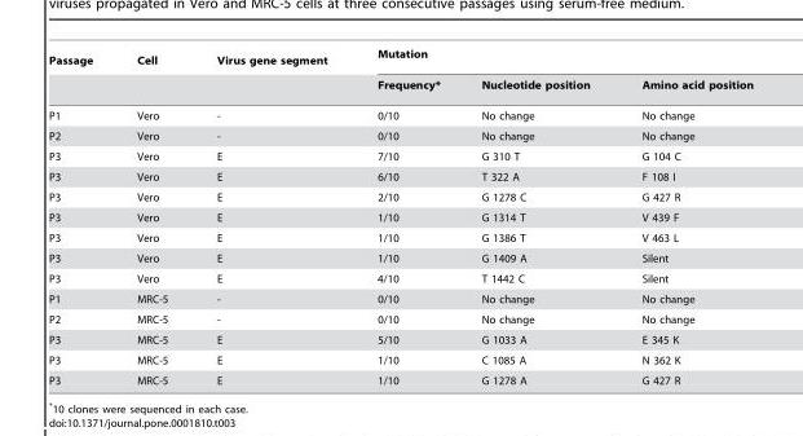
<table><thead><tr><td rowspan="2">Passage</td><td rowspan="2">Cell</td><td rowspan="2">Virus gene segment</td><td colspan="3">Mutation</td></tr><tr><td>Frequency*</td><td>Nucleotide position</td><td>Amino acid position</td></tr></thead><tbody><tr><td>P1</td><td>Vero</td><td>-</td><td>0/10</td><td>No change</td><td>No change</td></tr><tr><td>P2</td><td>Vero</td><td>-</td><td>0/10</td><td>No change</td><td>No change</td></tr><tr><td>P3</td><td>Vero</td><td>E</td><td>7/10</td><td>G 310 T</td><td>G 104 C</td></tr><tr><td>P3</td><td>Vero</td><td>E</td><td>6/10</td><td>T 322 A</td><td>F 108 I</td></tr><tr><td>P3</td><td>Vero</td><td>E</td><td>2/10</td><td>G 1278 C</td><td>G 427 R</td></tr><tr><td>P3</td><td>Vero</td><td>E</td><td>1/10</td><td>G 1314 T</td><td>V 439 F</td></tr><tr><td>P3</td><td>Vero</td><td>E</td><td>1/10</td><td>G 1386 T</td><td>V 463 L</td></tr><tr><td>P3</td><td>Vero</td><td>E</td><td>1/10</td><td>G 1409 A</td><td>Silent</td></tr><tr><td>P3</td><td>Vero</td><td>E</td><td>4/10</td><td>T 1442 C</td><td>Silent</td></tr><tr><td>P1</td><td>MRC-5</td><td>-</td><td>0/10</td><td>No change</td><td>No change</td></tr><tr><td>P2</td><td>MRC-5</td><td>-</td><td>0/10</td><td>No change</td><td>No change</td></tr><tr><td>P3</td><td>MRC-5</td><td>E</td><td>5/10</td><td>G 1033 A</td><td>E 345 K</td></tr><tr><td>P3</td><td>MRC-5</td><td>E</td><td>1/10</td><td>C 1085 A</td><td>N 362 K</td></tr><tr><td>P3</td><td>MRC-5</td><td>E</td><td>1/10</td><td>G 1278 A</td><td>G 427 R</td></tr></tbody></table>